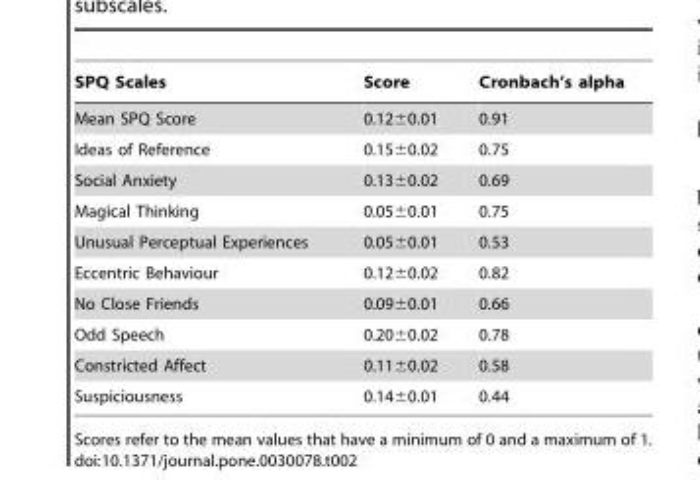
<table><thead><tr><td>SPQ Scales</td><td>Score</td><td>Cronbach’s alpha</td></tr></thead><tbody><tr><td>Mean SPQ Score</td><td>0.12±0.01</td><td>0.91</td></tr><tr><td>Ideas of Reference</td><td>0.15±0.02</td><td>0.75</td></tr><tr><td>Social Anxiety</td><td>0.13±0.02</td><td>0.69</td></tr><tr><td>Magical Thinking</td><td>0.05±0.01</td><td>0.75</td></tr><tr><td>Unusual Perceptual Experiences</td><td>0.05±0.01</td><td>0.53</td></tr><tr><td>Eccentric Behaviour</td><td>0.12±0.02</td><td>0.82</td></tr><tr><td>No Close Friends</td><td>0.09±0.01</td><td>0.66</td></tr><tr><td>Odd Speech</td><td>0.20±0.02</td><td>0.78</td></tr><tr><td>Constricted Affect</td><td>0.11±0.02</td><td>0.58</td></tr><tr><td>Suspiciousness</td><td>0.14±0.01</td><td>0.44</td></tr></tbody></table>